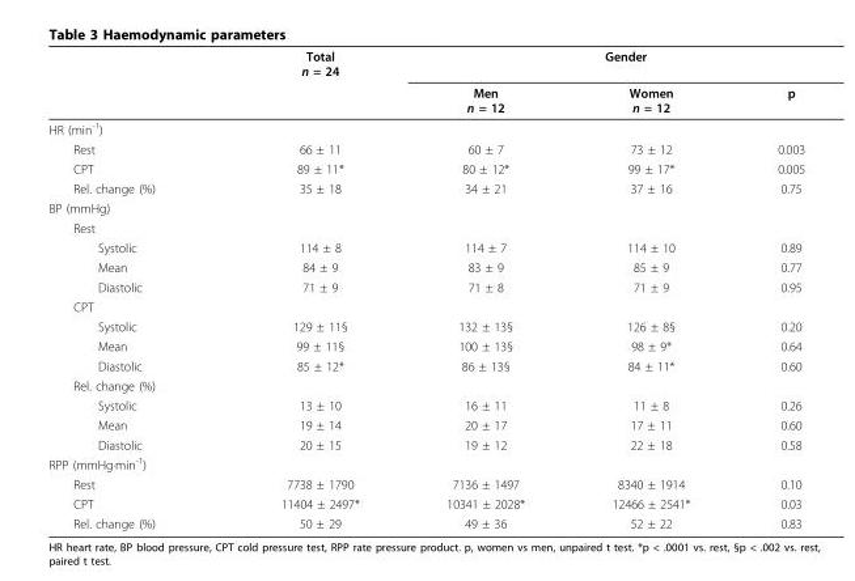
<table><thead><tr><td rowspan="2"></td><td rowspan="2">Total n = 24</td><td colspan="3">Gender</td></tr><tr><td>Men n = 12</td><td>Women n = 12</td><td>p</td></tr></thead><tbody><tr><td colspan="5">HR (min<sup>-1</sup>)</td></tr><tr><td>Rest</td><td>66 ± 11</td><td>60 ± 7</td><td>73 ± 12</td><td>0.003</td></tr><tr><td>CPT</td><td>89 ± 11*</td><td>80 ± 12*</td><td>99 ± 17*</td><td>0.005</td></tr><tr><td>Rel. change (%)</td><td>35 ± 18</td><td>34 ± 21</td><td>37 ± 16</td><td>0.75</td></tr><tr><td colspan="5">BP (mmHg)</td></tr><tr><td colspan="5">Rest</td></tr><tr><td>Systolic</td><td>114 ± 8</td><td>114 ± 7</td><td>114 ± 10</td><td>0.89</td></tr><tr><td>Mean</td><td>84 ± 9</td><td>83 ± 9</td><td>85 ± 9</td><td>0.77</td></tr><tr><td>Diastolic</td><td>71 ± 9</td><td>71 ± 8</td><td>71 ± 9</td><td>0.95</td></tr><tr><td colspan="5">CPT</td></tr><tr><td>Systolic</td><td>129 ± 11§</td><td>132 ± 13§</td><td>126 ± 8§</td><td>0.20</td></tr><tr><td>Mean</td><td>99 ± 11§</td><td>100 ± 13§</td><td>98 ± 9*</td><td>0.64</td></tr><tr><td>Diastolic</td><td>85 ± 12*</td><td>86 ± 13§</td><td>84 ± 11*</td><td>0.60</td></tr><tr><td colspan="5">Rel. change (%)</td></tr><tr><td>Systolic</td><td>13 ± 10</td><td>16 ± 11</td><td>11 ± 8</td><td>0.26</td></tr><tr><td>Mean</td><td>19 ± 14</td><td>20 ± 17</td><td>17 ± 11</td><td>0.60</td></tr><tr><td>Diastolic</td><td>20 ± 15</td><td>19 ± 12</td><td>22 ± 18</td><td>0.58</td></tr><tr><td colspan="5">RPP (mmHg·min<sup>-1</sup>)</td></tr><tr><td>Rest</td><td>7738 ± 1790</td><td>7136 ± 1497</td><td>8340 ± 1914</td><td>0.10</td></tr><tr><td>CPT</td><td>11404 ± 2497*</td><td>10341 ± 2028*</td><td>12466 ± 2541*</td><td>0.03</td></tr><tr><td>Rel. change (%)</td><td>50 ± 29</td><td>49 ± 36</td><td>52 ± 22</td><td>0.83</td></tr></tbody></table>